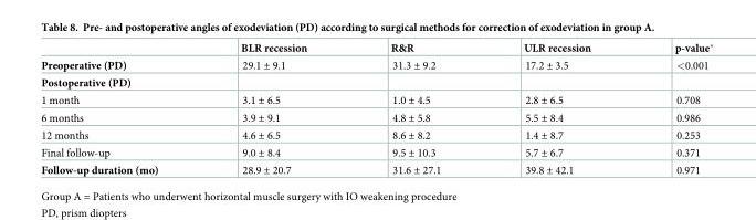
<table><thead><tr><td></td><td>BLR recession</td><td>R&amp;R</td><td>ULR recession</td><td>p-value*</td></tr></thead><tbody><tr><td>Preoperative (PD)</td><td>29.1 ± 9.1</td><td>31.3 ± 9.2</td><td>17.2 ± 3.5</td><td>&lt;0.001</td></tr><tr><td colspan="5">Postoperative (PD)</td></tr><tr><td>1 month</td><td>3.1 ± 6.5</td><td>1.0 ± 4.5</td><td>2.8 ± 6.5</td><td>0.708</td></tr><tr><td>6 months</td><td>3.9 ± 9.1</td><td>4.8 ± 5.8</td><td>5.5 ± 8.4</td><td>0.986</td></tr><tr><td>12 months</td><td>4.6 ± 6.5</td><td>8.6 ± 8.2</td><td>1.4 ± 8.7</td><td>0.253</td></tr><tr><td>Final follow-up</td><td>9.0 ± 8.4</td><td>9.5 ± 10.3</td><td>5.7 ± 6.7</td><td>0.371</td></tr><tr><td>Follow-up duration (mo)</td><td>28.9 ± 20.7</td><td>31.6 ± 27.1</td><td>39.8 ± 42.1</td><td>0.971</td></tr></tbody></table>